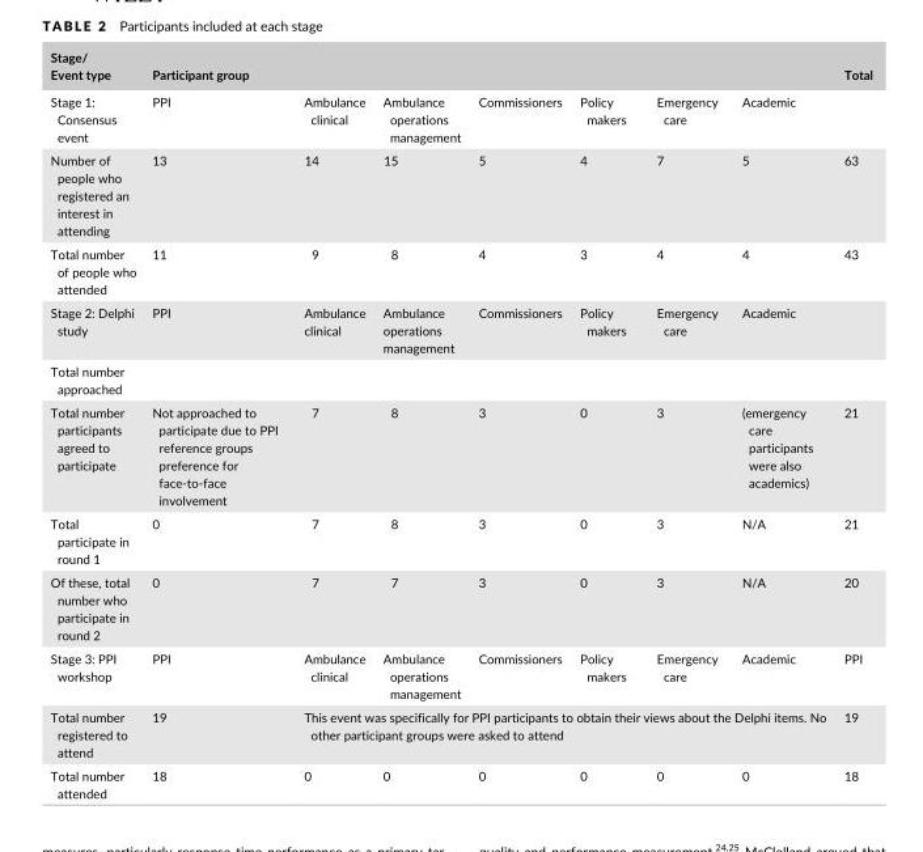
<table><thead><tr><td rowspan="2">Stage/ Event type Stage 1: Consensus event</td><td colspan="7">Participant group</td><td rowspan="2">Total</td></tr><tr><td>PPI</td><td>Ambulance clinical</td><td>Ambulance operations management</td><td>Commissioners</td><td>Policy makers</td><td>Emergency care</td><td>Academic</td></tr></thead><tbody><tr><td>Number of people who registered an interest in attending</td><td>13</td><td>14</td><td>15</td><td>5</td><td>4</td><td>7</td><td>5</td><td>63</td></tr><tr><td>Total number of people who attended</td><td>11</td><td>9</td><td>8</td><td>4</td><td>3</td><td>4</td><td>4</td><td>43</td></tr><tr><td>Stage 2: Delphi study</td><td>PPI</td><td>Ambulance clinical</td><td>Ambulance operations management</td><td>Commissioners</td><td>Policy makers</td><td>Emergency care</td><td>Academic</td><td></td></tr><tr><td colspan="9">Total number approached</td></tr><tr><td>Total number participants agreed to participate</td><td>Not approached to participate due to PPI reference groups preference for face- to- face involvement</td><td>7</td><td>8</td><td>3</td><td>0</td><td>3</td><td>(emergency care participants were also academics)</td><td>21</td></tr><tr><td>Total participate in round 1</td><td>0</td><td>7</td><td>8</td><td>3</td><td>0</td><td>3</td><td>N/A</td><td>21</td></tr><tr><td>Of these, total number who participate in round 2</td><td>0</td><td>7</td><td>7</td><td>3</td><td>0</td><td>3</td><td>N/A</td><td>20</td></tr><tr><td>Stage 3: PPI workshop</td><td>PPI</td><td>Ambulance clinical</td><td>Ambulance operations management</td><td>Commissioners</td><td>Policy makers</td><td>Emergency care</td><td>Academic</td><td>PPI</td></tr><tr><td>Total number registered to attend</td><td>19</td><td colspan="6">This event was specifically for PPI participants to obtain their views about the Delphi items. No other participant groups were asked to attend</td><td>19</td></tr><tr><td>Total number attended</td><td>18</td><td>0</td><td>0</td><td>0</td><td>0</td><td>0</td><td>0</td><td>18</td></tr></tbody></table>